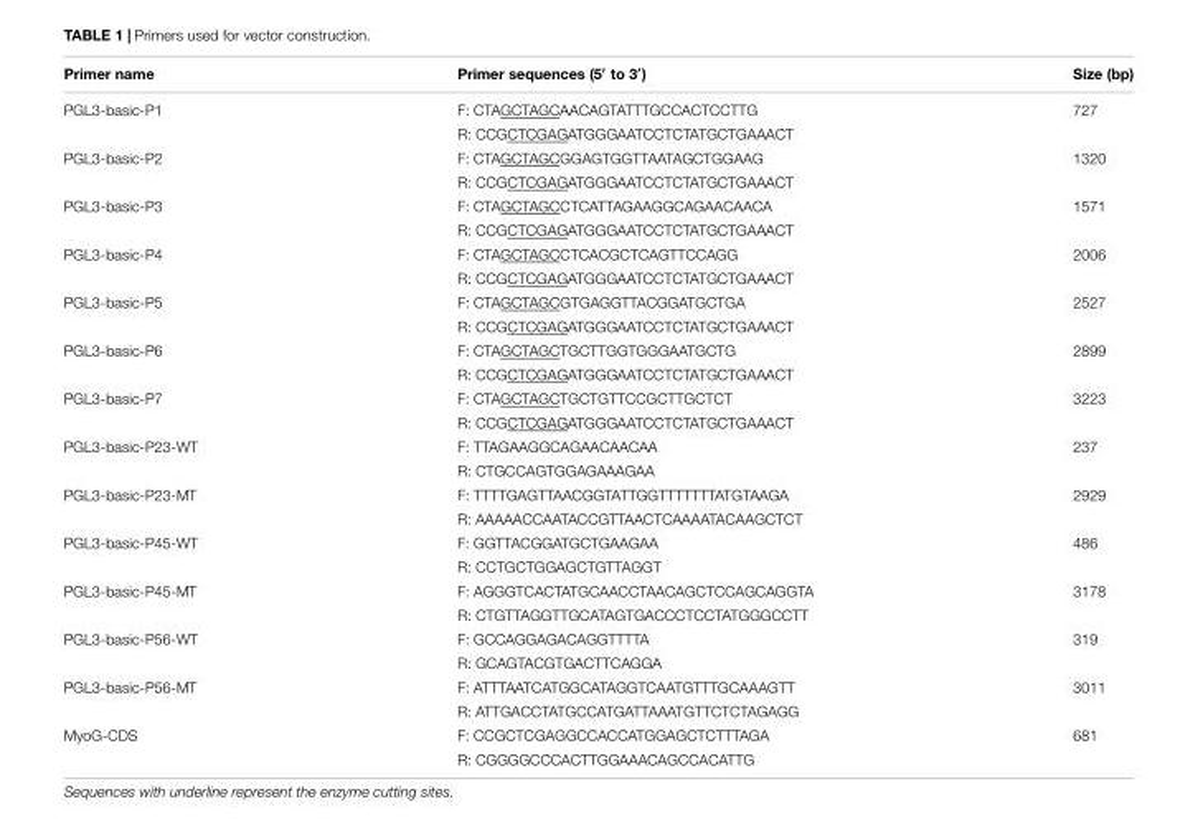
<table><thead><tr><td>Primer name</td><td>Primer sequences (5′ to 3′)</td><td>Size (bp)</td></tr></thead><tbody><tr><td rowspan="2">PGL3-basic-P1</td><td>F: CTAGCTAGCAACAGTATTTGCCACTCCTTG</td><td>727</td></tr><tr><td>R: CCGCTCGAGATGGGAATCCTCTATGCTGAAACT</td><td></td></tr><tr><td rowspan="2">PGL3-basic-P2</td><td>F: CTAGCTAGCGGAGTGGTTAATAGCTGGAAG</td><td>1320</td></tr><tr><td>R: CCGCTCGAGATGGGAATCCTCTATGCTGAAACT</td><td></td></tr><tr><td rowspan="2">PGL3-basic-P3</td><td>F: CTAGCTAGCCTCATTAGAAGGCAGAACAACA</td><td>1571</td></tr><tr><td>R: CCGCTCGAGATGGGAATCCTCTATGCTGAAACT</td><td></td></tr><tr><td rowspan="2">PGL3-basic-P4</td><td>F: CTAGCTAGCCTCACGCTCAGTTCCAGG</td><td>2006</td></tr><tr><td>R: CCGCTCGAGATGGGAATCCTCTATGCTGAAACT</td><td></td></tr><tr><td rowspan="2">PGL3-basic-P5</td><td>F: CTAGCTAGCGTGAGGTTACGGATGCTGA</td><td>2527</td></tr><tr><td>R: CCGCTCGAGATGGGAATCCTCTATGCTGAAACT</td><td></td></tr><tr><td rowspan="2">PGL3-basic-P6</td><td>F: CTAGCTAGCTGCTTGGTGGGAATGCTG</td><td>2899</td></tr><tr><td>R: CCGCTCGAGATGGGAATCCTCTATGCTGAAACT</td><td></td></tr><tr><td rowspan="2">PGL3-basic-P7</td><td>F: CTAGCTAGCTGCTGTTCCGCTTGCTCT</td><td>3223</td></tr><tr><td>R: CCGCTCGAGATGGGAATCCTCTATGCTGAAACT</td><td></td></tr><tr><td rowspan="2">PGL3-basic-P23-WT</td><td>F: TTAGAAGGCAGAACAACAA</td><td>237</td></tr><tr><td>R: CTGCCAGTGGAGAAAGAA</td><td></td></tr><tr><td rowspan="2">PGL3-basic-P23-MT</td><td>F: TTTTGAGTTAACGGTATTGGTTTTTTTATGTAAGA</td><td>2929</td></tr><tr><td>R: AAAAACCAATACCGTTAACTCAAAATACAAGCTCT</td><td></td></tr><tr><td rowspan="2">PGL3-basic-P45-WT</td><td>F: GGTTACGGATGCTGAAGAA</td><td>486</td></tr><tr><td>R: CCTGCTGGAGCTGTTAGGT</td><td></td></tr><tr><td rowspan="2">PGL3-basic-P45-MT</td><td>F: AGGGTCACTATGCAACCTAACAGCTCCAGCAGGTA</td><td>3178</td></tr><tr><td>R: CTGTTAGGTTGCATAGTGACCCTCCTATGGGCCTT</td><td></td></tr><tr><td rowspan="2">PGL3-basic-P56-WT</td><td>F: GCCAGGAGACAGGTTTTA</td><td>319</td></tr><tr><td>R: GCAGTACGTGACTTCAGGA</td><td></td></tr><tr><td rowspan="2">PGL3-basic-P56-MT</td><td>F: ATTTAATCATGGCATAGGTCAATGTTTGCAAAGTT</td><td>3011</td></tr><tr><td>R: ATTGACCTATGCCATGATTAAATGTTCTCTAGAGG</td><td></td></tr><tr><td rowspan="2">MyoG-CDS</td><td>F: CCGCTCGAGGCCACCATGGAGCTCTTTAGA</td><td>681</td></tr><tr><td>R: CGGGGCCCACTTGGAAACAGCCACATTG</td><td></td></tr></tbody></table>